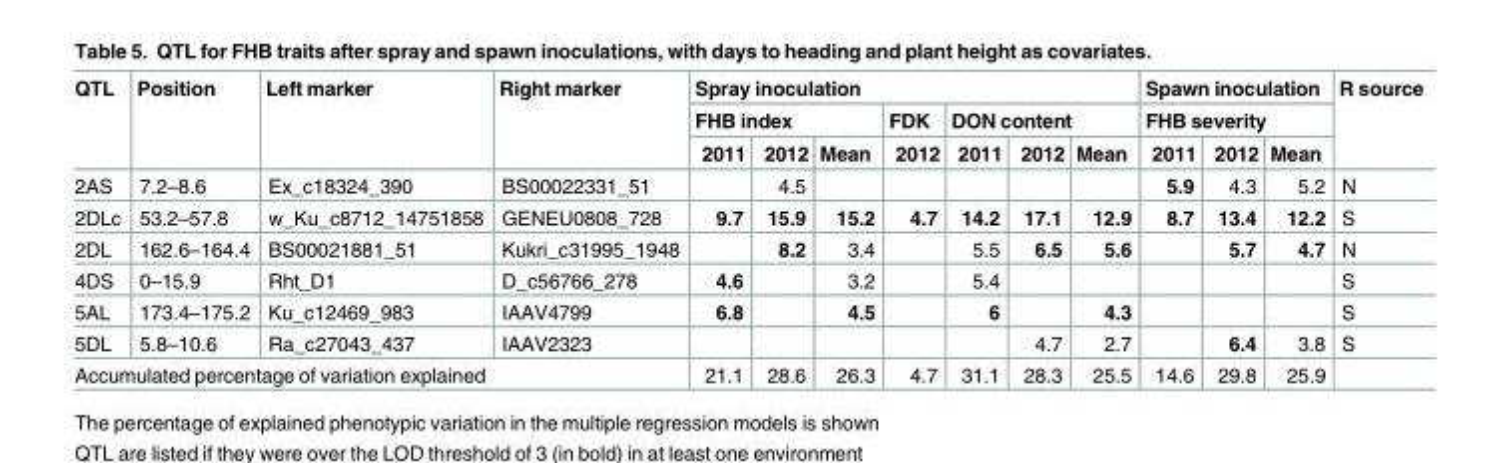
<table><thead><tr><td rowspan="3">QTL</td><td rowspan="3">Position</td><td rowspan="3">Left marker</td><td rowspan="3">Right marker</td><td colspan="7">Spray inoculation</td><td rowspan="2" colspan="3">Spawn inoculation FHB severity</td><td rowspan="3">R source</td></tr><tr><td colspan="3">FHB index</td><td rowspan="2">FDK 2012</td><td colspan="3">DON content</td></tr><tr><td>2011</td><td>2012</td><td>Mean</td><td>2011</td><td>2012</td><td>Mean</td><td>2011</td><td>2012</td><td>Mean</td></tr></thead><tbody><tr><td>2AS</td><td>7.2–8.6</td><td>Ex_c18324_390</td><td>BS00022331_51</td><td></td><td>4.5</td><td></td><td></td><td></td><td></td><td></td><td>5.9</td><td>4.3</td><td>5.2</td><td>N</td></tr><tr><td>2DLc</td><td>53.2–57.8</td><td>w_Ku_c8712_14751858</td><td>GENEU0808_728</td><td>9.7</td><td>15.9</td><td>15.2</td><td>4.7</td><td>14.2</td><td>17.1</td><td>12.9</td><td>8.7</td><td>13.4</td><td>12.2</td><td>S</td></tr><tr><td>2DL</td><td>162.6–164.4</td><td>BS00021881_51</td><td>Kukri_c31995_1948</td><td></td><td>8.2</td><td>3.4</td><td></td><td>5.5</td><td>6.5</td><td>5.6</td><td></td><td>5.7</td><td>4.7</td><td>N</td></tr><tr><td>4DS</td><td>0–15.9</td><td>Rht_D1</td><td>D_c56766_278</td><td>4.6</td><td></td><td>3.2</td><td></td><td>5.4</td><td></td><td></td><td></td><td></td><td></td><td>S</td></tr><tr><td>5AL</td><td>173.4–175.2</td><td>Ku_c12469_983</td><td>IAAV4799</td><td>6.8</td><td></td><td>4.5</td><td></td><td>6</td><td></td><td>4.3</td><td></td><td></td><td></td><td>S</td></tr><tr><td>5DL</td><td>5.8–10.6</td><td>Ra_c27043_437</td><td>IAAV2323</td><td></td><td></td><td></td><td></td><td></td><td>4.7</td><td>2.7</td><td></td><td>6.4</td><td>3.8</td><td>S</td></tr><tr><td colspan="4">Accumulated percentage of variation explained</td><td>21.1</td><td>28.6</td><td>26.3</td><td>4.7</td><td>31.1</td><td>28.3</td><td>25.5</td><td>14.6</td><td>29.8</td><td>25.9</td><td></td></tr></tbody></table>